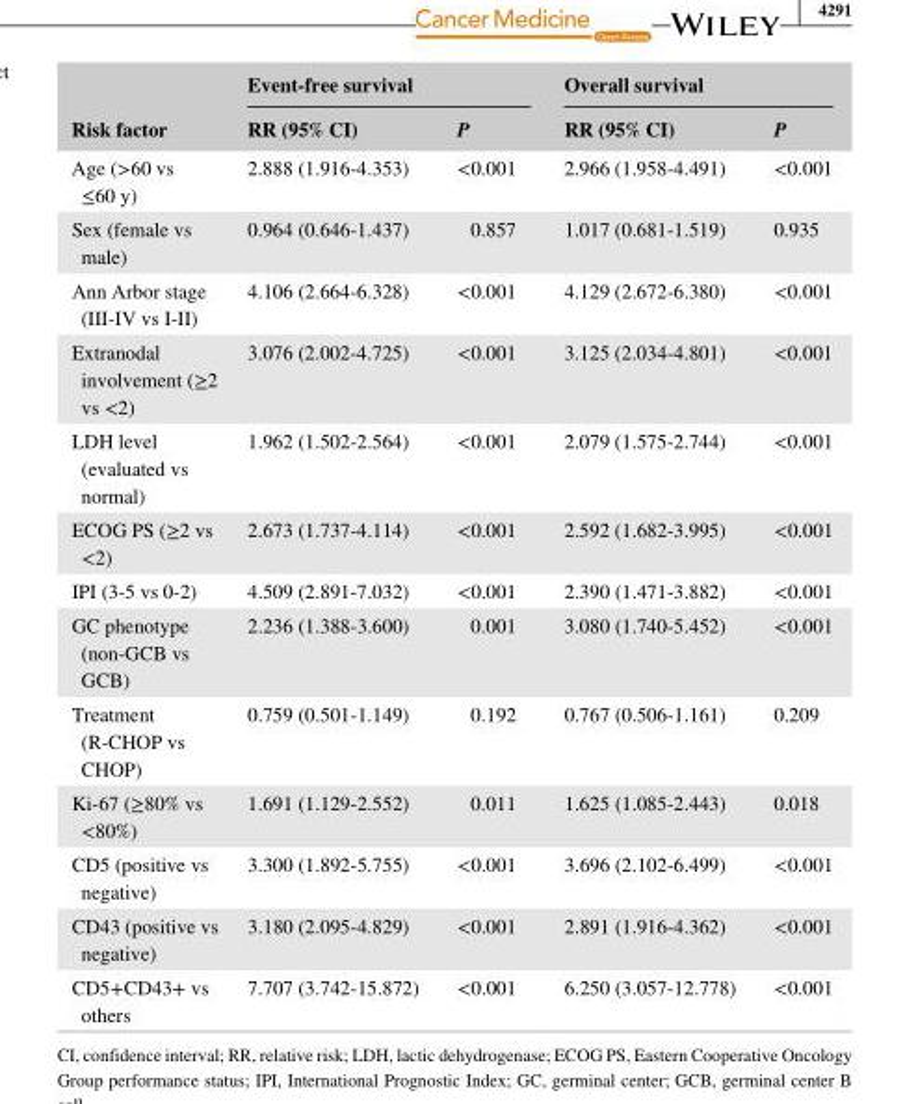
<table><thead><tr><td rowspan="2">Risk factor</td><td colspan="2">Event- free survival</td><td colspan="2">Overall survival</td></tr><tr><td>RR (95% CI)</td><td>P</td><td>RR (95% CI)</td><td>P</td></tr></thead><tbody><tr><td>Age (&gt;60 vs ≤60 y)</td><td>2.888 (1.916- 4.353)</td><td>&lt;0.001</td><td>2.966 (1.958- 4.491)</td><td>&lt;0.001</td></tr><tr><td>Sex (female vs male)</td><td>0.964 (0.646- 1.437)</td><td>0.857</td><td>1.017 (0.681- 1.519)</td><td>0.935</td></tr><tr><td>Ann Arbor stage (III- IV vs I- II)</td><td>4.106 (2.664- 6.328)</td><td>&lt;0.001</td><td>4.129 (2.672- 6.380)</td><td>&lt;0.001</td></tr><tr><td>Extranodal involvement (≥2 vs &lt;2)</td><td>3.076 (2.002- 4.725)</td><td>&lt;0.001</td><td>3.125 (2.034- 4.801)</td><td>&lt;0.001</td></tr><tr><td>LDH level (evaluated vs normal)</td><td>1.962 (1.502- 2.564)</td><td>&lt;0.001</td><td>2.079 (1.575- 2.744)</td><td>&lt;0.001</td></tr><tr><td>ECOG PS (≥2 vs &lt;2)</td><td>2.673 (1.737- 4.114)</td><td>&lt;0.001</td><td>2.592 (1.682- 3.995)</td><td>&lt;0.001</td></tr><tr><td>IPI (3- 5 vs 0- 2)</td><td>4.509 (2.891- 7.032)</td><td>&lt;0.001</td><td>2.390 (1.471- 3.882)</td><td>&lt;0.001</td></tr><tr><td>GC phenotype (non- GCB vs GCB)</td><td>2.236 (1.388- 3.600)</td><td>0.001</td><td>3.080 (1.740- 5.452)</td><td>&lt;0.001</td></tr><tr><td>Treatment (R- CHOP vs CHOP)</td><td>0.759 (0.501- 1.149)</td><td>0.192</td><td>0.767 (0.506- 1.161)</td><td>0.209</td></tr><tr><td>Ki- 67 (≥80% vs &lt;80%)</td><td>1.691 (1.129- 2.552)</td><td>0.011</td><td>1.625 (1.085- 2.443)</td><td>0.018</td></tr><tr><td>CD5 (positive vs negative)</td><td>3.300 (1.892- 5.755)</td><td>&lt;0.001</td><td>3.696 (2.102- 6.499)</td><td>&lt;0.001</td></tr><tr><td>CD43 (positive vs negative)</td><td>3.180 (2.095- 4.829)</td><td>&lt;0.001</td><td>2.891 (1.916- 4.362)</td><td>&lt;0.001</td></tr><tr><td>CD5+CD43+ vs others</td><td>7.707 (3.742- 15.872)</td><td>&lt;0.001</td><td>6.250 (3.057- 12.778)</td><td>&lt;0.001</td></tr></tbody></table>